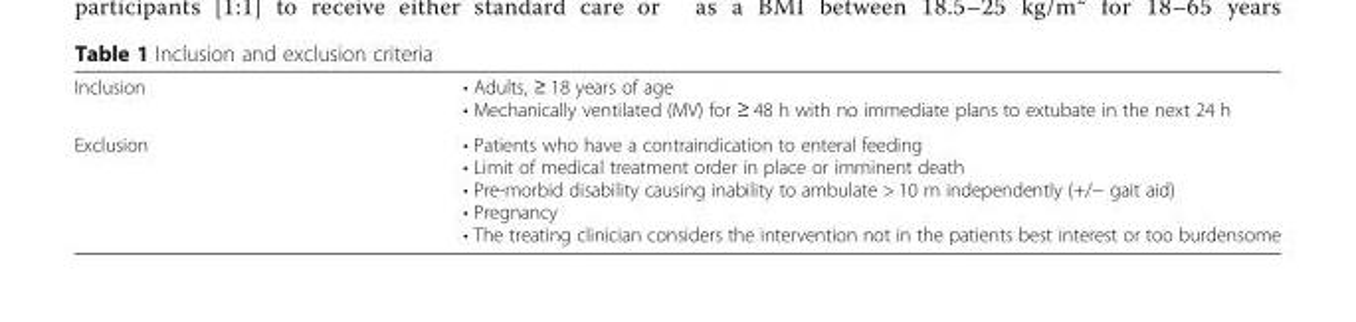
<table><tbody><tr><td>Inclusion</td><td>• Adults, ≥ 18 years of age • Mechanically ventilated (MV) for ≥ 48 h with no immediate plans to extubate in the next 24 h</td></tr><tr><td>Exclusion</td><td>• Patients who have a contraindication to enteral feeding • Limit of medical treatment order in place or imminent death • Pre-morbid disability causing inability to ambulate &gt; 10 m independently (+/− gait aid) • Pregnancy • The treating clinician considers the intervention not in the patients best interest or too burdensome</td></tr></tbody></table>